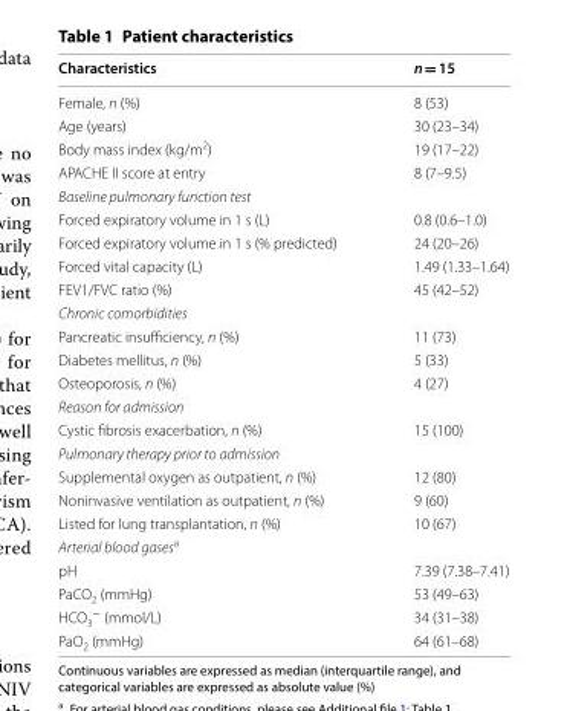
<table><thead><tr><td>Characteristics</td><td>n = 15</td></tr></thead><tbody><tr><td>Female, n (%)</td><td>8 (53)</td></tr><tr><td>Age (years)</td><td>30 (23–34)</td></tr><tr><td>Body mass index (kg/m<sup>2</sup>)</td><td>19 (17–22)</td></tr><tr><td>APACHE II score at entry</td><td>8 (7–9.5)</td></tr><tr><td colspan="2">Baseline pulmonary function test</td></tr><tr><td>Forced expiratory volume in 1 s (L)</td><td>0.8 (0.6–1.0)</td></tr><tr><td>Forced expiratory volume in 1 s (% predicted)</td><td>24 (20–26)</td></tr><tr><td>Forced vital capacity (L)</td><td>1.49 (1.33–1.64)</td></tr><tr><td>FEV1/FVC ratio (%)</td><td>45 (42–52)</td></tr><tr><td colspan="2">Chronic comorbidities</td></tr><tr><td>Pancreatic insufficiency, n (%)</td><td>11 (73)</td></tr><tr><td>Diabetes mellitus, n (%)</td><td>5 (33)</td></tr><tr><td>Osteoporosis, n (%)</td><td>4 (27)</td></tr><tr><td colspan="2">Reason for admission</td></tr><tr><td>Cystic fibrosis exacerbation, n (%)</td><td>15 (100)</td></tr><tr><td colspan="2">Pulmonary therapy prior to admission</td></tr><tr><td>Supplemental oxygen as outpatient, n (%)</td><td>12 (80)</td></tr><tr><td>Noninvasive ventilation as outpatient, n (%)</td><td>9 (60)</td></tr><tr><td>Listed for lung transplantation, n (%)</td><td>10 (67)</td></tr><tr><td colspan="2">Arterial blood gases<sup>a</sup></td></tr><tr><td>pH</td><td>7.39 (7.38–7.41)</td></tr><tr><td>PaCO<sub>2</sub> (mmHg)</td><td>53 (49–63)</td></tr><tr><td>HCO<sub>3</sub> <sup>−</sup> (mmol/L)</td><td>34 (31–38)</td></tr><tr><td>PaO<sub>2</sub> (mmHg)</td><td>64 (61–68)</td></tr></tbody></table>